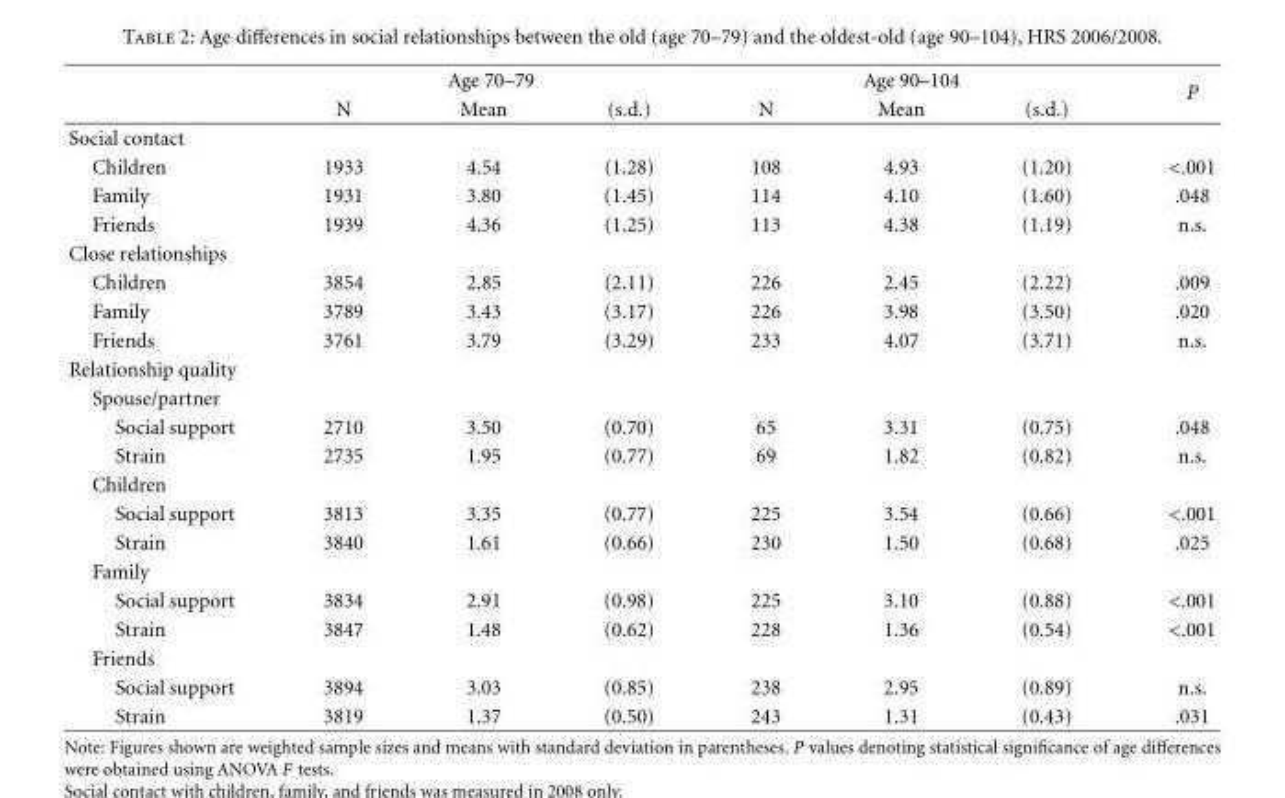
<table><thead><tr><td rowspan="2"></td><td colspan="3">Age 70–79</td><td colspan="3">Age 90–104</td><td rowspan="2">P</td></tr><tr><td>N</td><td>Mean</td><td>(s.d.)</td><td>N</td><td>Mean</td><td>(s.d.)</td></tr></thead><tbody><tr><td colspan="8">Social contact</td></tr><tr><td>Children</td><td>1933</td><td>4.54</td><td>(1.28)</td><td>108</td><td>4.93</td><td>(1.20)</td><td>&lt;.001</td></tr><tr><td>Family</td><td>1931</td><td>3.80</td><td>(1.45)</td><td>114</td><td>4.10</td><td>(1.60)</td><td>.048</td></tr><tr><td>Friends</td><td>1939</td><td>4.36</td><td>(1.25)</td><td>113</td><td>4.38</td><td>(1.19)</td><td>n.s.</td></tr><tr><td colspan="8">Close relationships</td></tr><tr><td>Children</td><td>3854</td><td>2.85</td><td>(2.11)</td><td>226</td><td>2.45</td><td>(2.22)</td><td>.009</td></tr><tr><td>Family</td><td>3789</td><td>3.43</td><td>(3.17)</td><td>226</td><td>3.98</td><td>(3.50)</td><td>.020</td></tr><tr><td>Friends</td><td>3761</td><td>3.79</td><td>(3.29)</td><td>233</td><td>4.07</td><td>(3.71)</td><td>n.s.</td></tr><tr><td colspan="8">Relationship quality</td></tr><tr><td colspan="8">Spouse/partner</td></tr><tr><td>Social support</td><td>2710</td><td>3.50</td><td>(0.70)</td><td>65</td><td>3.31</td><td>(0.75)</td><td>.048</td></tr><tr><td>Strain</td><td>2735</td><td>1.95</td><td>(0.77)</td><td>69</td><td>1.82</td><td>(0.82)</td><td>n.s.</td></tr><tr><td colspan="8">Children</td></tr><tr><td>Social support</td><td>3813</td><td>3.35</td><td>(0.77)</td><td>225</td><td>3.54</td><td>(0.66)</td><td>&lt;.001</td></tr><tr><td>Strain</td><td>3840</td><td>1.61</td><td>(0.66)</td><td>230</td><td>1.50</td><td>(0.68)</td><td>.025</td></tr><tr><td colspan="8">Family</td></tr><tr><td>Social support</td><td>3834</td><td>2.91</td><td>(0.98)</td><td>225</td><td>3.10</td><td>(0.88)</td><td>&lt;.001</td></tr><tr><td>Strain</td><td>3847</td><td>1.48</td><td>(0.62)</td><td>228</td><td>1.36</td><td>(0.54)</td><td>&lt;.001</td></tr><tr><td colspan="8">Friends</td></tr><tr><td>Social support</td><td>3894</td><td>3.03</td><td>(0.85)</td><td>238</td><td>2.95</td><td>(0.89)</td><td>n.s.</td></tr><tr><td>Strain</td><td>3819</td><td>1.37</td><td>(0.50)</td><td>243</td><td>1.31</td><td>(0.43)</td><td>.031</td></tr></tbody></table>